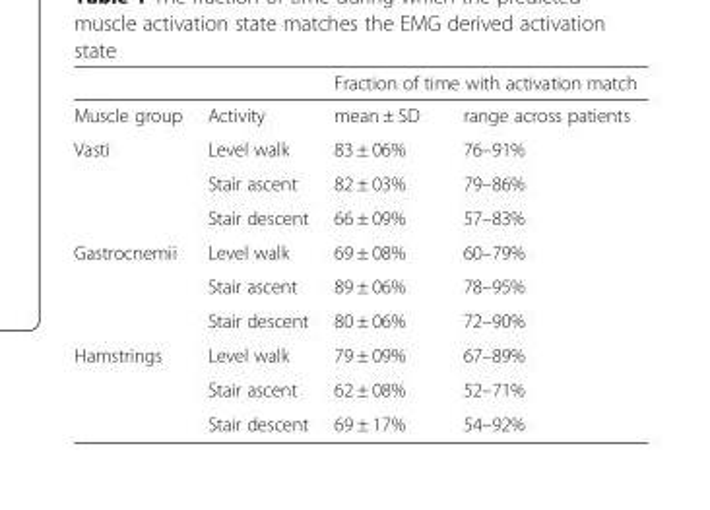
<table><thead><tr><td rowspan="2">Muscle group</td><td rowspan="2">Activity</td><td colspan="2">Fraction of time with activation match</td></tr><tr><td>mean ± SD</td><td>range across patients</td></tr></thead><tbody><tr><td rowspan="3">Vasti</td><td>Level walk</td><td>83 ± 06%</td><td>76–91%</td></tr><tr><td>Stair ascent</td><td>82 ± 03%</td><td>79–86%</td></tr><tr><td>Stair descent</td><td>66 ± 09%</td><td>57–83%</td></tr><tr><td rowspan="3">Gastrocnemii</td><td>Level walk</td><td>69 ± 08%</td><td>60–79%</td></tr><tr><td>Stair ascent</td><td>89 ± 06%</td><td>78–95%</td></tr><tr><td>Stair descent</td><td>80 ± 06%</td><td>72–90%</td></tr><tr><td rowspan="3">Hamstrings</td><td>Level walk</td><td>79 ± 09%</td><td>67–89%</td></tr><tr><td>Stair ascent</td><td>62 ± 08%</td><td>52–71%</td></tr><tr><td>Stair descent</td><td>69 ± 17%</td><td>54–92%</td></tr></tbody></table>